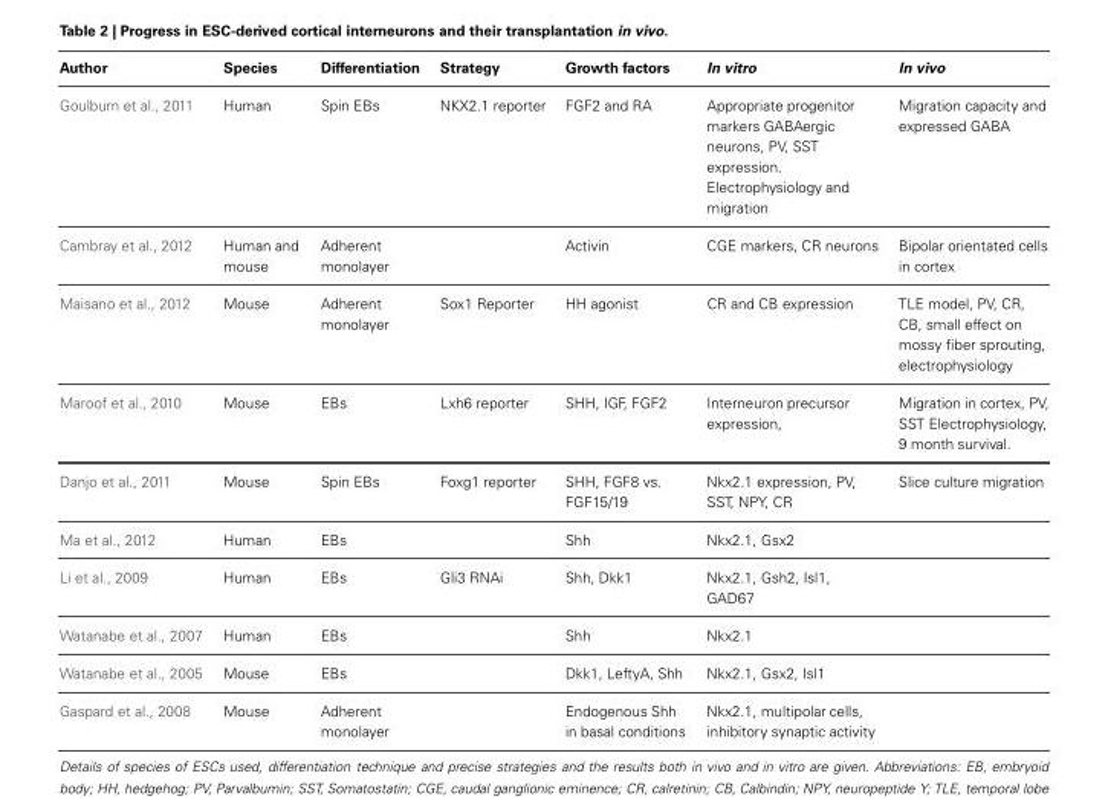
<table><thead><tr><td>Author</td><td>Species</td><td>Differentiation</td><td>Strategy</td><td>Growth factors</td><td>In vitro</td><td>In vivo</td></tr></thead><tbody><tr><td>Goulburn et al., 2011</td><td>Human</td><td>Spin EBs</td><td>NKX2.1 reporter</td><td>FGF2 and RA</td><td>Appropriate progenitor markers GABAergic neurons, PV, SST expression. Electrophysiology and migration</td><td>Migration capacity and expressed GABA</td></tr><tr><td>Cambray et al., 2012</td><td>Human and mouse</td><td>Adherent monolayer</td><td></td><td>Activin</td><td>CGE markers, CR neurons</td><td>Bipolar orientated cells in cortex</td></tr><tr><td>Maisano et al., 2012</td><td>Mouse</td><td>Adherent monolayer</td><td>Sox1 Reporter</td><td>HH agonist</td><td>CR and CB expression</td><td>TLE model, PV, CR, CB, small effect on mossy fiber sprouting, electrophysiology</td></tr><tr><td>Maroof et al., 2010</td><td>Mouse</td><td>EBs</td><td>Lxh6 reporter</td><td>SHH, IGF, FGF2</td><td>Interneuron precursor expression,</td><td>Migration in cortex, PV, SST Electrophysiology, 9 month survival.</td></tr><tr><td>Danjo et al., 2011</td><td>Mouse</td><td>Spin EBs</td><td>Foxg1 reporter</td><td>SHH, FGF8 vs. FGF15/19</td><td>Nkx2.1 expression, PV, SST, NPY, CR</td><td>Slice culture migration</td></tr><tr><td>Ma et al., 2012</td><td>Human</td><td>EBs</td><td></td><td>Shh</td><td>Nkx2.1, Gsx2</td><td></td></tr><tr><td>Li et al., 2009</td><td>Human</td><td>EBs</td><td>Gli3 RNAi</td><td>Shh, Dkk1</td><td>Nkx2.1, Gsh2, Isl1, GAD67</td><td></td></tr><tr><td>Watanabe et al., 2007</td><td>Human</td><td>EBs</td><td></td><td>Shh</td><td>Nkx2.1</td><td></td></tr><tr><td>Watanabe et al., 2005</td><td>Mouse</td><td>EBs</td><td></td><td>Dkk1, LeftyA, Shh</td><td>Nkx2.1, Gsx2, Isl1</td><td></td></tr><tr><td>Gaspard et al., 2008</td><td>Mouse</td><td>Adherent monolayer</td><td></td><td>Endogenous Shh in basal conditions</td><td>Nkx2.1, multipolar cells, inhibitory synaptic activity</td><td></td></tr></tbody></table>